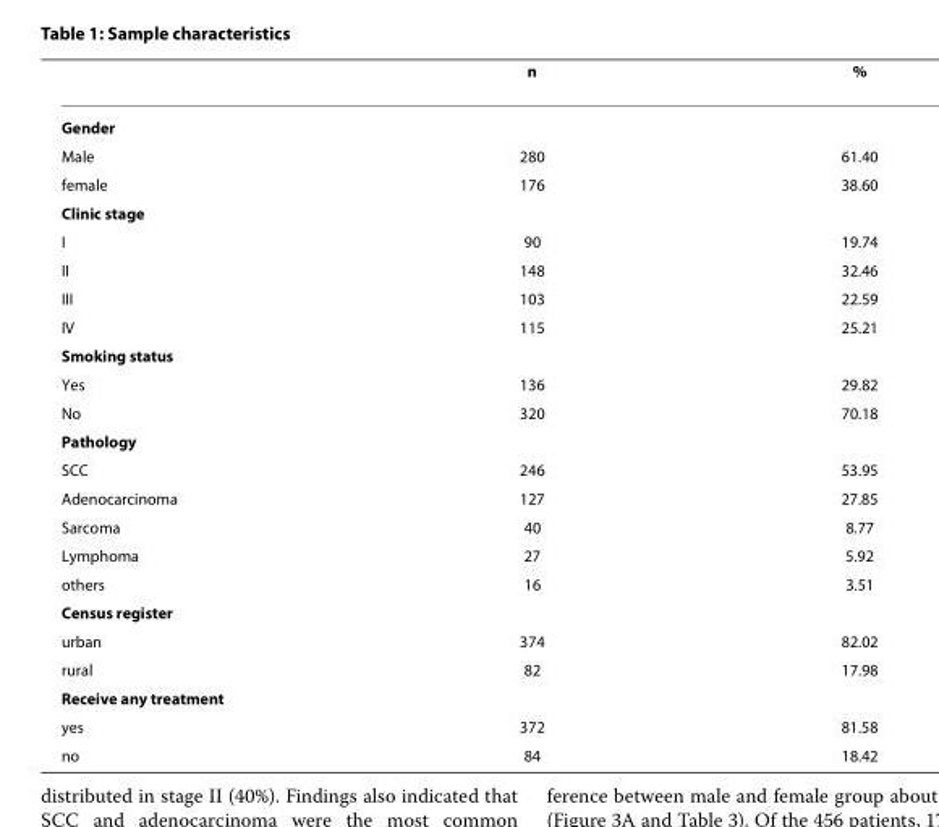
<table><thead><tr><td></td><td>n</td><td>%</td></tr></thead><tbody><tr><td colspan="3">Gender</td></tr><tr><td>Male</td><td>280</td><td>61.40</td></tr><tr><td>female</td><td>176</td><td>38.60</td></tr><tr><td colspan="3">Clinic stage</td></tr><tr><td>I</td><td>90</td><td>19.74</td></tr><tr><td>II</td><td>148</td><td>32.46</td></tr><tr><td>III</td><td>103</td><td>22.59</td></tr><tr><td>IV</td><td>115</td><td>25.21</td></tr><tr><td colspan="3">Smoking status</td></tr><tr><td>Yes</td><td>136</td><td>29.82</td></tr><tr><td>No</td><td>320</td><td>70.18</td></tr><tr><td colspan="3">Pathology</td></tr><tr><td>SCC</td><td>246</td><td>53.95</td></tr><tr><td>Adenocarcinoma</td><td>127</td><td>27.85</td></tr><tr><td>Sarcoma</td><td>40</td><td>8.77</td></tr><tr><td>Lymphoma</td><td>27</td><td>5.92</td></tr><tr><td>others</td><td>16</td><td>3.51</td></tr><tr><td colspan="3">Census register</td></tr><tr><td>urban</td><td>374</td><td>82.02</td></tr><tr><td>rural</td><td>82</td><td>17.98</td></tr><tr><td colspan="3">Receive any treatment</td></tr><tr><td>yes</td><td>372</td><td>81.58</td></tr><tr><td>no</td><td>84</td><td>18.42</td></tr></tbody></table>